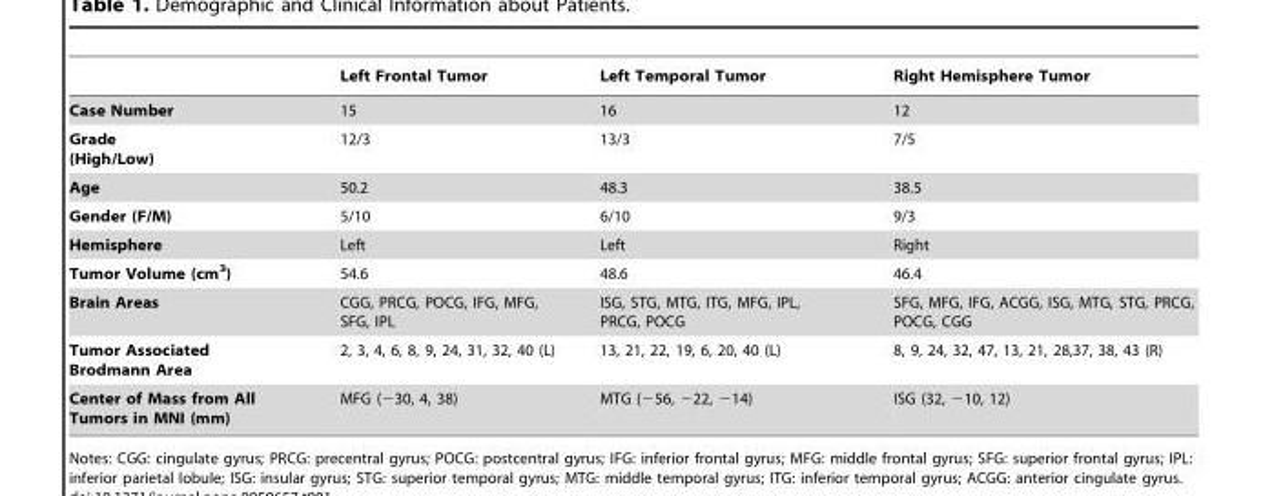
<table><thead><tr><td></td><td>Left Frontal Tumor</td><td>Left Temporal Tumor</td><td>Right Hemisphere Tumor</td></tr></thead><tbody><tr><td>Case Number</td><td>15</td><td>16</td><td>12</td></tr><tr><td>Grade (High/Low)</td><td>12/3</td><td>13/3</td><td>7/5</td></tr><tr><td>Age</td><td>50.2</td><td>48.3</td><td>38.5</td></tr><tr><td>Gender (F/M)</td><td>5/10</td><td>6/10</td><td>9/3</td></tr><tr><td>Hemisphere</td><td>Left</td><td>Left</td><td>Right</td></tr><tr><td>Tumor Volume (cm<sup>3</sup>)</td><td>54.6</td><td>48.6</td><td>46.4</td></tr><tr><td>Brain Areas</td><td>CGG, PRCG, POCG, IFG, MFG, SFG, IPL</td><td>ISG, STG, MTG, ITG, MFG, IPL, PRCG, POCG</td><td>SFG, MFG, IFG, ACGG, ISG, MTG, STG, PRCG, POCG, CGG</td></tr><tr><td>Tumor Associated Brodmann Area</td><td>2, 3, 4, 6, 8, 9, 24, 31, 32, 40 (L)</td><td>13, 21, 22, 19, 6, 20, 40 (L)</td><td>8, 9, 24, 32, 47, 13, 21, 28,37, 38, 43 (R)</td></tr><tr><td>Center of Mass from All Tumors in MNI (mm)</td><td>MFG (−30, 4, 38)</td><td>MTG (−56, −22, −14)</td><td>ISG (32, −10, 12)</td></tr></tbody></table>